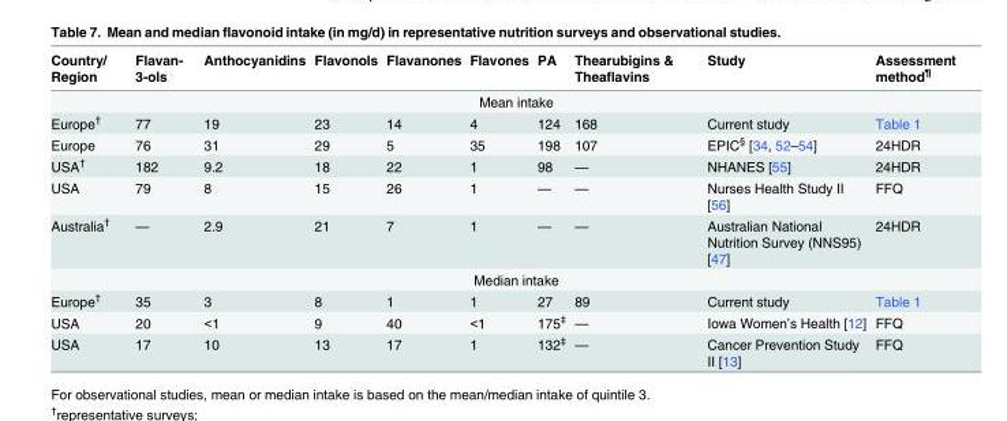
<table><thead><tr><td>Country/ Region</td><td>Flavan- 3-ols</td><td>Anthocyanidins</td><td>Flavonols</td><td>Flavanones</td><td>Flavones</td><td>PA</td><td>Thearubigins &amp; Theaflavins</td><td>Study</td><td>Assessment method<sup>¶</sup></td></tr></thead><tbody><tr><td colspan="10">Mean intake</td></tr><tr><td>Europe<sup>†</sup></td><td>77</td><td>19</td><td>23</td><td>14</td><td>4</td><td>124</td><td>168</td><td>Current study</td><td>Table 1</td></tr><tr><td>Europe</td><td>76</td><td>31</td><td>29</td><td>5</td><td>35</td><td>198</td><td>107</td><td>EPIC<sup>§</sup> [34, 52–54]</td><td>24HDR</td></tr><tr><td>USA<sup>†</sup></td><td>182</td><td>9.2</td><td>18</td><td>22</td><td>1</td><td>98</td><td>—</td><td>NHANES [55]</td><td>24HDR</td></tr><tr><td>USA</td><td>79</td><td>8</td><td>15</td><td>26</td><td>1</td><td>—</td><td>—</td><td>Nurses Health Study II [56]</td><td>FFQ</td></tr><tr><td>Australia<sup>†</sup></td><td>—</td><td>2.9</td><td>21</td><td>7</td><td>1</td><td>—</td><td>—</td><td>Australian National Nutrition Survey (NNS95) [47]</td><td>24HDR</td></tr><tr><td colspan="10">Median intake</td></tr><tr><td>Europe<sup>†</sup></td><td>35</td><td>3</td><td>8</td><td>1</td><td>1</td><td>27</td><td>89</td><td>Current study</td><td>Table 1</td></tr><tr><td>USA</td><td>20</td><td>&lt;1</td><td>9</td><td>40</td><td>&lt;1</td><td>175<sup>‡</sup></td><td>—</td><td>Iowa Women’s Health [12]</td><td>FFQ</td></tr><tr><td>USA</td><td>17</td><td>10</td><td>13</td><td>17</td><td>1</td><td>132<sup>‡</sup></td><td>—</td><td>Cancer Prevention Study II [13]</td><td>FFQ</td></tr></tbody></table>